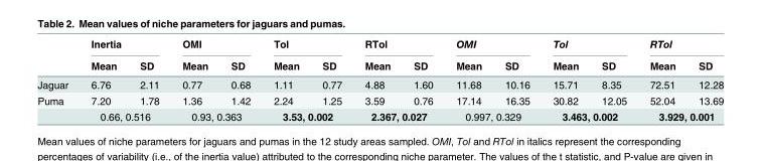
<table><thead><tr><td rowspan="2"></td><td colspan="2">Inertia</td><td colspan="2">OMI</td><td colspan="2">Tol</td><td colspan="2">RTol</td><td colspan="2">OMI</td><td colspan="2">Tol</td><td colspan="2">RTol</td></tr><tr><td>Mean</td><td>SD</td><td>Mean</td><td>SD</td><td>Mean</td><td>SD</td><td>Mean</td><td>SD</td><td>Mean</td><td>SD</td><td>Mean</td><td>SD</td><td>Mean</td><td>SD</td></tr></thead><tbody><tr><td>Jaguar</td><td>6.76</td><td>2.11</td><td>0.77</td><td>0.68</td><td>1.11</td><td>0.77</td><td>4.88</td><td>1.60</td><td>11.68</td><td>10.16</td><td>15.71</td><td>8.35</td><td>72.51</td><td>12.28</td></tr><tr><td rowspan="2">Puma</td><td>7.20</td><td>1.78</td><td>1.36</td><td>1.42</td><td>2.24</td><td>1.25</td><td>3.59</td><td>0.76</td><td>17.14</td><td>16.35</td><td>30.82</td><td>12.05</td><td>52.04</td><td>13.69</td></tr><tr><td colspan="2">0.66, 0.516</td><td colspan="2">0.93, 0.363</td><td colspan="2">3.53, 0.002</td><td colspan="2">2.367, 0.027</td><td colspan="2">0.997, 0.329</td><td colspan="2">3.463, 0.002</td><td colspan="2">3.929, 0.001</td></tr></tbody></table>